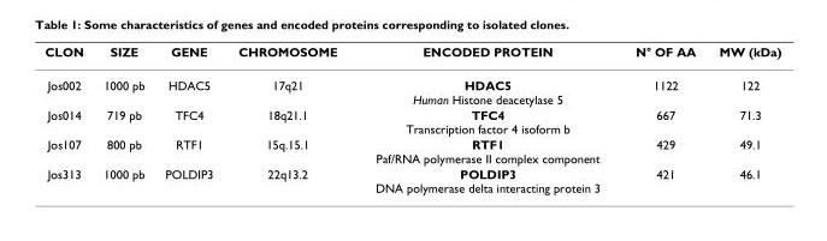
<table><thead><tr><td>CLON</td><td>SIZE</td><td>GENE</td><td>CHROMOSOME</td><td>ENCODED PROTEIN</td><td>N° OF AA</td><td>MW (kDa)</td></tr></thead><tbody><tr><td>Jos002</td><td>1000 pb</td><td>HDAC5</td><td>17q21</td><td>HDAC5 Human Histone deacetylase 5</td><td>1122</td><td>122</td></tr><tr><td>Jos014</td><td>719 pb</td><td>TFC4</td><td>18q21.1</td><td>TFC4 Transcription factor 4 isoform b</td><td>667</td><td>71.3</td></tr><tr><td>Jos107</td><td>800 pb</td><td>RTF1</td><td>15q.15.1</td><td>RTF1 Paf/RNA polymerase II complex component</td><td>429</td><td>49.1</td></tr><tr><td>Jos313</td><td>1000 pb</td><td>POLDIP3</td><td>22q13.2</td><td>POLDIP3 DNA polymerase delta interacting protein 3</td><td>421</td><td>46.1</td></tr></tbody></table>